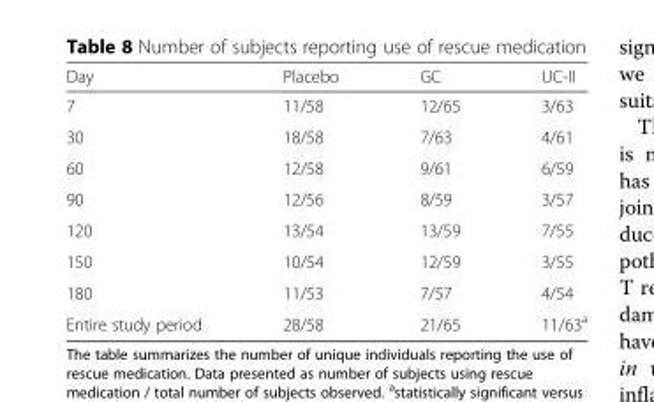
<table><thead><tr><td>Day</td><td>Placebo</td><td>GC</td><td>UC-II</td></tr></thead><tbody><tr><td>7</td><td>11/58</td><td>12/65</td><td>3/63</td></tr><tr><td>30</td><td>18/58</td><td>7/63</td><td>4/61</td></tr><tr><td>60</td><td>12/58</td><td>9/61</td><td>6/59</td></tr><tr><td>90</td><td>12/56</td><td>8/59</td><td>3/57</td></tr><tr><td>120</td><td>13/54</td><td>13/59</td><td>7/55</td></tr><tr><td>150</td><td>10/54</td><td>12/59</td><td>3/55</td></tr><tr><td>180</td><td>11/53</td><td>7/57</td><td>4/54</td></tr><tr><td>Entire study period</td><td>28/58</td><td>21/65</td><td>11/63<sup>a</sup></td></tr></tbody></table>